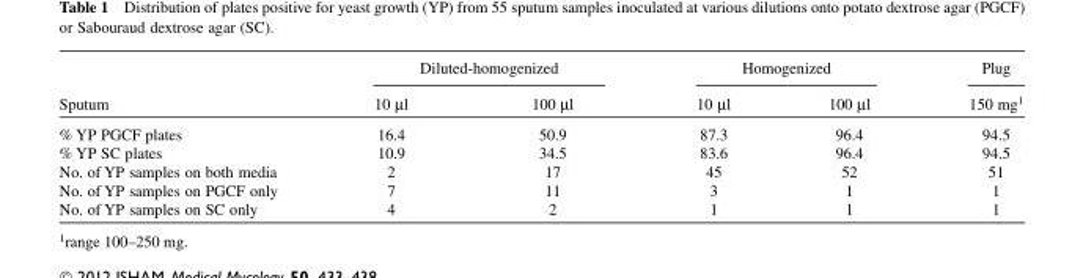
<table><thead><tr><td rowspan="2">Sputum</td><td colspan="2">Diluted- homogenized</td><td colspan="2">Homogenized</td><td rowspan="2">Plug 150 mg <sup>1</sup></td></tr><tr><td>10 μ l</td><td>100 μ l</td><td>10 μ l</td><td>100 μ l</td></tr></thead><tbody><tr><td>% YP PGCF plates</td><td>16.4</td><td>50.9</td><td>87.3</td><td>96.4</td><td>94.5</td></tr><tr><td>% YP SC plates</td><td>10.9</td><td>34.5</td><td>83.6</td><td>96.4</td><td>94.5</td></tr><tr><td>No. of YP samples on both media</td><td>2</td><td>17</td><td>45</td><td>52</td><td>51</td></tr><tr><td>No. of YP samples on PGCF only</td><td>7</td><td>11</td><td>3</td><td>1</td><td>1</td></tr><tr><td>No. of YP samples on SC only</td><td>4</td><td>2</td><td>1</td><td>1</td><td>1</td></tr></tbody></table>